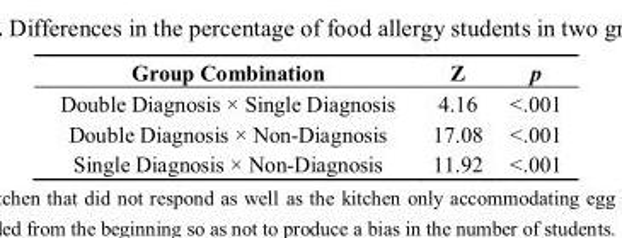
<table><thead><tr><td>Group Combination</td><td>Z</td><td>p</td></tr></thead><tbody><tr><td>Double Diagnosis × Single Diagnosis</td><td>4.16</td><td>&lt;.001</td></tr><tr><td>Double Diagnosis × Non-Diagnosis</td><td>17.08</td><td>&lt;.001</td></tr><tr><td>Single Diagnosis × Non-Diagnosis</td><td>11.92</td><td>&lt;.001</td></tr></tbody></table>